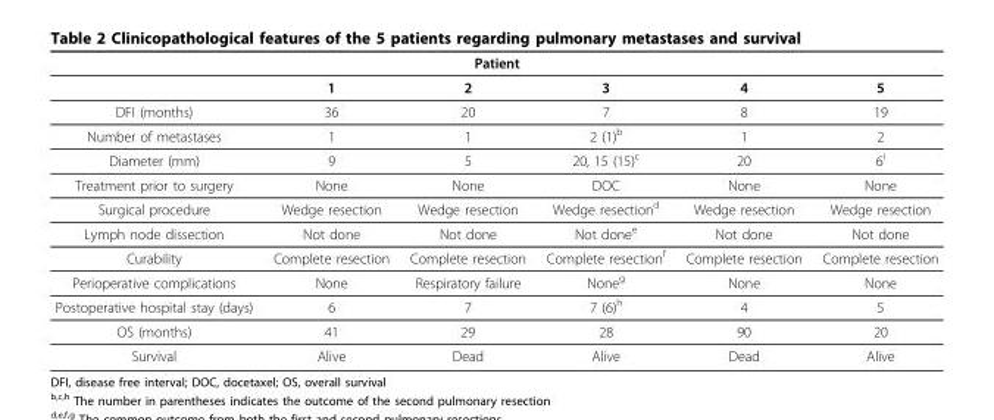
<table><thead><tr><td colspan="6">Patient</td></tr><tr><td></td><td>1</td><td>2</td><td>3</td><td>4</td><td>5</td></tr></thead><tbody><tr><td>DFI (months)</td><td>36</td><td>20</td><td>7</td><td>8</td><td>19</td></tr><tr><td>Number of metastases</td><td>1</td><td>1</td><td>2 (1)b</td><td>1</td><td>2</td></tr><tr><td>Diameter (mm)</td><td>9</td><td>5</td><td>20, 15 (15)c</td><td>20</td><td>6i</td></tr><tr><td>Treatment prior to surgery</td><td>None</td><td>None</td><td>DOC</td><td>None</td><td>None</td></tr><tr><td>Surgical procedure</td><td>Wedge resection</td><td>Wedge resection</td><td>Wedge resectiond</td><td>Wedge resection</td><td>Wedge resection</td></tr><tr><td>Lymph node dissection</td><td>Not done</td><td>Not done</td><td>Not donee</td><td>Not done</td><td>Not done</td></tr><tr><td>Curability</td><td>Complete resection</td><td>Complete resection</td><td>Complete resectionf</td><td>Complete resection</td><td>Complete resection</td></tr><tr><td>Perioperative complications</td><td>None</td><td>Respiratory failure</td><td>Noneg</td><td>None</td><td>None</td></tr><tr><td>Postoperative hospital stay (days)</td><td>6</td><td>7</td><td>7 (6)h</td><td>4</td><td>5</td></tr><tr><td>OS (months)</td><td>41</td><td>29</td><td>28</td><td>90</td><td>20</td></tr><tr><td>Survival</td><td>Alive</td><td>Dead</td><td>Alive</td><td>Dead</td><td>Alive</td></tr></tbody></table>